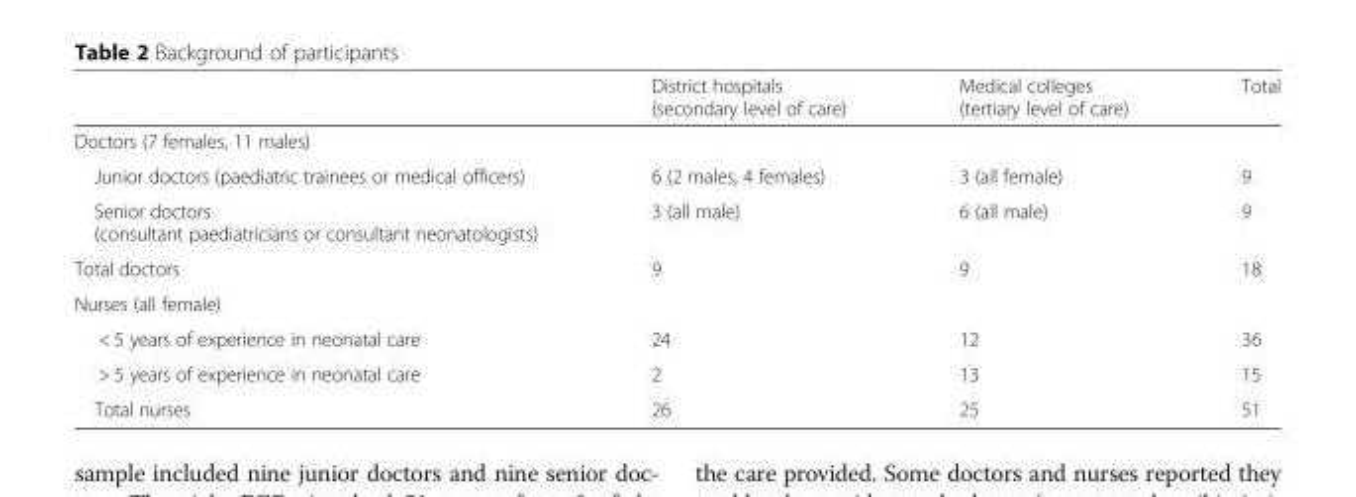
<table><thead><tr><td></td><td>District hospitals (secondary level of care)</td><td>Medical colleges (tertiary level of care)</td><td>Total</td></tr></thead><tbody><tr><td colspan="4">Doctors (7 females, 11 males)</td></tr><tr><td>Junior doctors (paediatric trainees or medical officers)</td><td>6 (2 males, 4 females)</td><td>3 (all female)</td><td>9</td></tr><tr><td>Senior doctors (consultant paediatricians or consultant neonatologists)</td><td>3 (all male)</td><td>6 (all male)</td><td>9</td></tr><tr><td>Total doctors</td><td>9</td><td>9</td><td>18</td></tr><tr><td colspan="4">Nurses (all female)</td></tr><tr><td>&lt; 5 years of experience in neonatal care</td><td>24</td><td>12</td><td>36</td></tr><tr><td>&gt; 5 years of experience in neonatal care</td><td>2</td><td>13</td><td>15</td></tr><tr><td>Total nurses</td><td>26</td><td>25</td><td>51</td></tr></tbody></table>